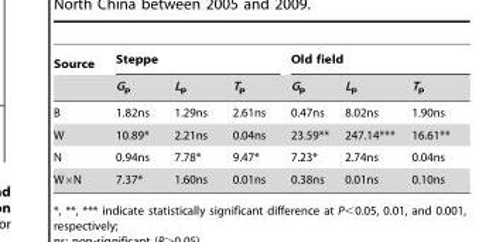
<table><thead><tr><td rowspan="2">Source</td><td colspan="3">Steppe</td><td colspan="3">Old field</td></tr><tr><td>G<sub>p</sub></td><td>L<sub>p</sub></td><td>T<sub>p</sub></td><td>G<sub>p</sub></td><td>L<sub>p</sub></td><td>T<sub>p</sub></td></tr></thead><tbody><tr><td>B</td><td>1.82ns</td><td>1.29ns</td><td>2.61ns</td><td>0.47ns</td><td>8.02ns</td><td>1.90ns</td></tr><tr><td>W</td><td>10.89*</td><td>2.21ns</td><td>0.04ns</td><td>23.59**</td><td>247.14***</td><td>16.61**</td></tr><tr><td>N</td><td>0.94ns</td><td>7.78*</td><td>9.47*</td><td>7.23*</td><td>2.74ns</td><td>0.04ns</td></tr><tr><td>W×N</td><td>7.37*</td><td>1.60ns</td><td>0.01ns</td><td>0.38ns</td><td>0.01ns</td><td>0.10ns</td></tr></tbody></table>